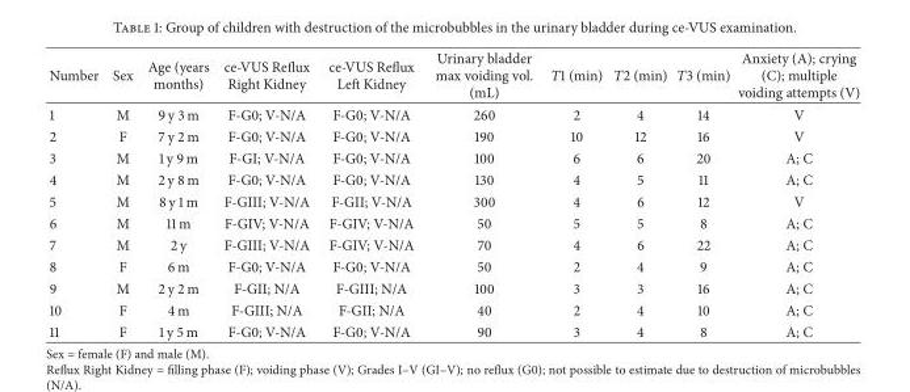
<table><thead><tr><td>Number</td><td>Sex</td><td>Age (years months)</td><td>ce-VUS Reflux Right Kidney</td><td>ce-VUS Reflux Left Kidney</td><td>Urinary bladder max voiding vol. (mL)</td><td>T1 (min)</td><td>T2 (min)</td><td>T3 (min)</td><td>Anxiety (A); crying (C); multiple voiding attempts (V)</td></tr></thead><tbody><tr><td>1</td><td>M</td><td>9 y 3 m</td><td>F-G0; V-N/A</td><td>F-G0; V-N/A</td><td>260</td><td>2</td><td>4</td><td>14</td><td>V</td></tr><tr><td>2</td><td>F</td><td>7 y 2 m</td><td>F-G0; V-N/A</td><td>F-G0; V-N/A</td><td>190</td><td>10</td><td>12</td><td>16</td><td>V</td></tr><tr><td>3</td><td>M</td><td>1 y 9 m</td><td>F-GI; V-N/A</td><td>F-G0; V-N/A</td><td>100</td><td>6</td><td>6</td><td>20</td><td>A; C</td></tr><tr><td>4</td><td>M</td><td>2 y 8 m</td><td>F-G0; V-N/A</td><td>F-G0; V-N/A</td><td>130</td><td>4</td><td>5</td><td>11</td><td>A; C</td></tr><tr><td>5</td><td>M</td><td>8 y 1 m</td><td>F-GIII; V-N/A</td><td>F-GII; V-N/A</td><td>300</td><td>4</td><td>6</td><td>12</td><td>V</td></tr><tr><td>6</td><td>M</td><td>11 m</td><td>F-GIV; V-N/A</td><td>F-GIV; V-N/A</td><td>50</td><td>5</td><td>5</td><td>8</td><td>A; C</td></tr><tr><td>7</td><td>M</td><td>2 y</td><td>F-GIII; V-N/A</td><td>F-GIV; V-N/A</td><td>70</td><td>4</td><td>6</td><td>22</td><td>A; C</td></tr><tr><td>8</td><td>F</td><td>6 m</td><td>F-G0; V-N/A</td><td>F-G0; V-N/A</td><td>50</td><td>2</td><td>4</td><td>9</td><td>A; C</td></tr><tr><td>9</td><td>M</td><td>2 y 2 m</td><td>F-GII; N/A</td><td>F-GIII; N/A</td><td>100</td><td>3</td><td>3</td><td>16</td><td>A; C</td></tr><tr><td>10</td><td>F</td><td>4 m</td><td>F-GIII; N/A</td><td>F-GII; N/A</td><td>40</td><td>2</td><td>4</td><td>10</td><td>A; C</td></tr><tr><td>11</td><td>F</td><td>1 y 5 m</td><td>F-G0; V-N/A</td><td>F-G0; V-N/A</td><td>90</td><td>3</td><td>4</td><td>8</td><td>A; C</td></tr></tbody></table>